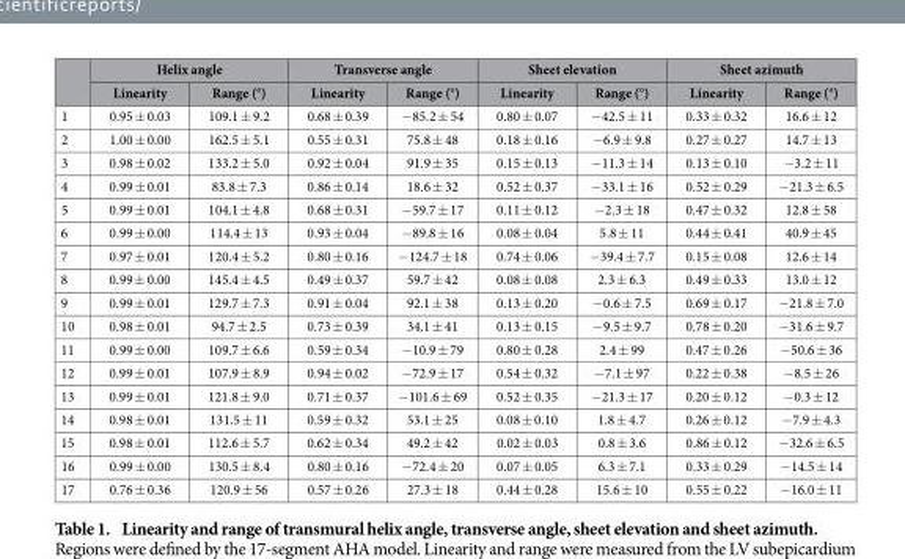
<table><thead><tr><td rowspan="2"></td><td colspan="2">Helix angle</td><td colspan="2">Transverse angle</td><td colspan="2">Sheet elevation</td><td colspan="2">Sheet azimuth</td></tr><tr><td>Linearity</td><td>Range (°)</td><td>Linearity</td><td>Range (°)</td><td>Linearity</td><td>Range (°)</td><td>Linearity</td><td>Range (°)</td></tr></thead><tbody><tr><td>1</td><td>0.95 ± 0.03</td><td>109.1 ± 9.2</td><td>0.68 ± 0.39</td><td>− 85.2 ± 54</td><td>0.80 ± 0.07</td><td>− 42.5 ± 11</td><td>0.33 ± 0.32</td><td>16.6 ± 12</td></tr><tr><td>2</td><td>1.00 ± 0.00</td><td>162.5 ± 5.1</td><td>0.55 ± 0.31</td><td>75.8 ± 48</td><td>0.18 ± 0.16</td><td>− 6.9 ± 9.8</td><td>0.27 ± 0.27</td><td>14.7 ± 13</td></tr><tr><td>3</td><td>0.98 ± 0.02</td><td>133.2 ± 5.0</td><td>0.92 ± 0.04</td><td>91.9 ± 35</td><td>0.15 ± 0.13</td><td>− 11.3 ± 14</td><td>0.13 ± 0.10</td><td>− 3.2 ± 11</td></tr><tr><td>4</td><td>0.99 ± 0.01</td><td>83.8 ± 7.3</td><td>0.86 ± 0.14</td><td>18.6 ± 32</td><td>0.52 ± 0.37</td><td>− 33.1 ± 16</td><td>0.52 ± 0.29</td><td>− 21.3 ± 6.5</td></tr><tr><td>5</td><td>0.99 ± 0.01</td><td>104.1 ± 4.8</td><td>0.68 ± 0.31</td><td>− 59.7 ± 17</td><td>0.11 ± 0.12</td><td>− 2.3 ± 18</td><td>0.47 ± 0.32</td><td>12.8 ± 58</td></tr><tr><td>6</td><td>0.99 ± 0.00</td><td>114.4 ± 13</td><td>0.93 ± 0.04</td><td>− 89.8 ± 16</td><td>0.08 ± 0.04</td><td>5.8 ± 11</td><td>0.44 ± 0.41</td><td>40.9 ± 45</td></tr><tr><td>7</td><td>0.97 ± 0.01</td><td>120.4 ± 5.2</td><td>0.80 ± 0.16</td><td>− 124.7 ± 18</td><td>0.74 ± 0.06</td><td>− 39.4 ± 7.7</td><td>0.15 ± 0.08</td><td>12.6 ± 14</td></tr><tr><td>8</td><td>0.99 ± 0.00</td><td>145.4 ± 4.5</td><td>0.49 ± 0.37</td><td>59.7 ± 42</td><td>0.08 ± 0.08</td><td>2.3 ± 6.3</td><td>0.49 ± 0.33</td><td>13.0 ± 12</td></tr><tr><td>9</td><td>0.99 ± 0.01</td><td>129.7 ± 7.3</td><td>0.91 ± 0.04</td><td>92.1 ± 38</td><td>0.13 ± 0.20</td><td>− 0.6 ± 7.5</td><td>0.69 ± 0.17</td><td>− 21.8 ± 7.0</td></tr><tr><td>10</td><td>0.98 ± 0.01</td><td>94.7 ± 2.5</td><td>0.73 ± 0.39</td><td>34.1 ± 41</td><td>0.13 ± 0.15</td><td>− 9.5 ± 9.7</td><td>0.78 ± 0.20</td><td>− 31.6 ± 9.7</td></tr><tr><td>11</td><td>0.99 ± 0.00</td><td>109.7 ± 6.6</td><td>0.59 ± 0.34</td><td>− 10.9 ± 79</td><td>0.80 ± 0.28</td><td>2.4 ± 99</td><td>0.47 ± 0.26</td><td>− 50.6 ± 36</td></tr><tr><td>12</td><td>0.99 ± 0.01</td><td>107.9 ± 8.9</td><td>0.94 ± 0.02</td><td>− 72.9 ± 17</td><td>0.54 ± 0.32</td><td>− 7.1 ± 97</td><td>0.22 ± 0.38</td><td>− 8.5 ± 26</td></tr><tr><td>13</td><td>0.99 ± 0.01</td><td>121.8 ± 9.0</td><td>0.71 ± 0.37</td><td>− 101.6 ± 69</td><td>0.52 ± 0.35</td><td>− 21.3 ± 17</td><td>0.20 ± 0.12</td><td>− 0.3 ± 12</td></tr><tr><td>14</td><td>0.98 ± 0.01</td><td>131.5 ± 11</td><td>0.59 ± 0.32</td><td>53.1 ± 25</td><td>0.08 ± 0.10</td><td>1.8 ± 4.7</td><td>0.26 ± 0.12</td><td>− 7.9 ± 4.3</td></tr><tr><td>15</td><td>0.98 ± 0.01</td><td>112.6 ± 5.7</td><td>0.62 ± 0.34</td><td>49.2 ± 42</td><td>0.02 ± 0.03</td><td>0.8 ± 3.6</td><td>0.86 ± 0.12</td><td>− 32.6 ± 6.5</td></tr><tr><td>16</td><td>0.99 ± 0.00</td><td>130.5 ± 8.4</td><td>0.80 ± 0.16</td><td>− 72.4 ± 20</td><td>0.07 ± 0.05</td><td>6.3 ± 7.1</td><td>0.33 ± 0.29</td><td>− 14.5 ± 14</td></tr><tr><td>17</td><td>0.76 ± 0.36</td><td>120.9 ± 56</td><td>0.57 ± 0.26</td><td>27.3 ± 18</td><td>0.44 ± 0.28</td><td>15.6 ± 10</td><td>0.55 ± 0.22</td><td>− 16.0 ± 11</td></tr></tbody></table>